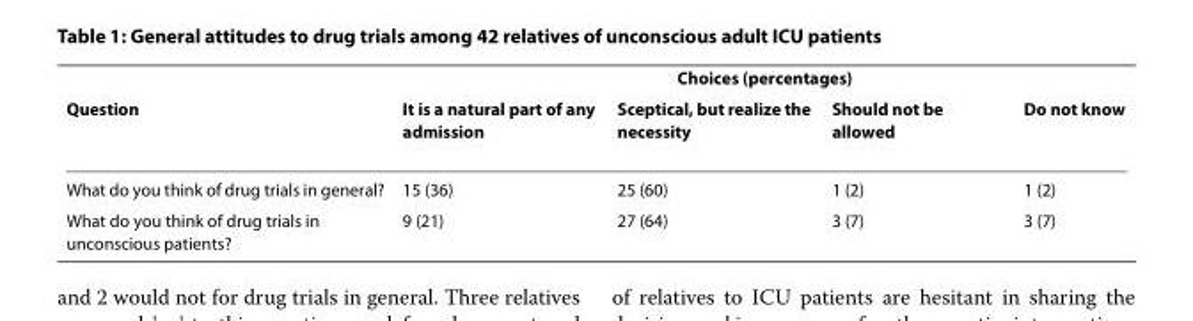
<table><thead><tr><td rowspan="2">Question</td><td colspan="4">Choices (percentages)</td></tr><tr><td>It is a natural part of any admission</td><td>Sceptical, but realize the necessity</td><td>Should not be allowed</td><td>Do not know</td></tr></thead><tbody><tr><td>What do you think of drug trials in general?</td><td>15 (36)</td><td>25 (60)</td><td>1 (2)</td><td>1 (2)</td></tr><tr><td>What do you think of drug trials in unconscious patients?</td><td>9 (21)</td><td>27 (64)</td><td>3 (7)</td><td>3 (7)</td></tr></tbody></table>